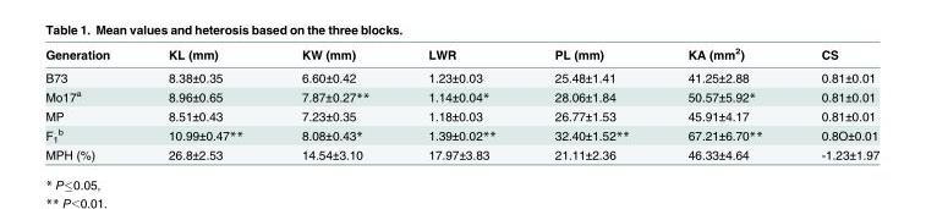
<table><thead><tr><td>Generation</td><td>KL (mm)</td><td>KW (mm)</td><td>LWR</td><td>PL (mm)</td><td>KA (mm<sup>2</sup>)</td><td>CS</td></tr></thead><tbody><tr><td>B73</td><td>8.38±0.35</td><td>6.60±0.42</td><td>1.23±0.03</td><td>25.48±1.41</td><td>41.25±2.88</td><td>0.81±0.01</td></tr><tr><td>Mo17<sup>a</sup></td><td>8.96±0.65</td><td>7.87±0.27**</td><td>1.14±0.04*</td><td>28.06±1.84</td><td>50.57±5.92*</td><td>0.81±0.01</td></tr><tr><td>MP</td><td>8.51±0.43</td><td>7.23±0.35</td><td>1.18±0.03</td><td>26.77±1.53</td><td>45.91±4.17</td><td>0.81±0.01</td></tr><tr><td>F<sub>1</sub> <sup>b</sup></td><td>10.99±0.47**</td><td>8.08±0.43*</td><td>1.39±0.02**</td><td>32.40±1.52**</td><td>67.21±6.70**</td><td>0.8O±0.01</td></tr><tr><td>MPH (%)</td><td>26.8±2.53</td><td>14.54±3.10</td><td>17.97±3.83</td><td>21.11±2.36</td><td>46.33±4.64</td><td>-1.23±1.97</td></tr></tbody></table>